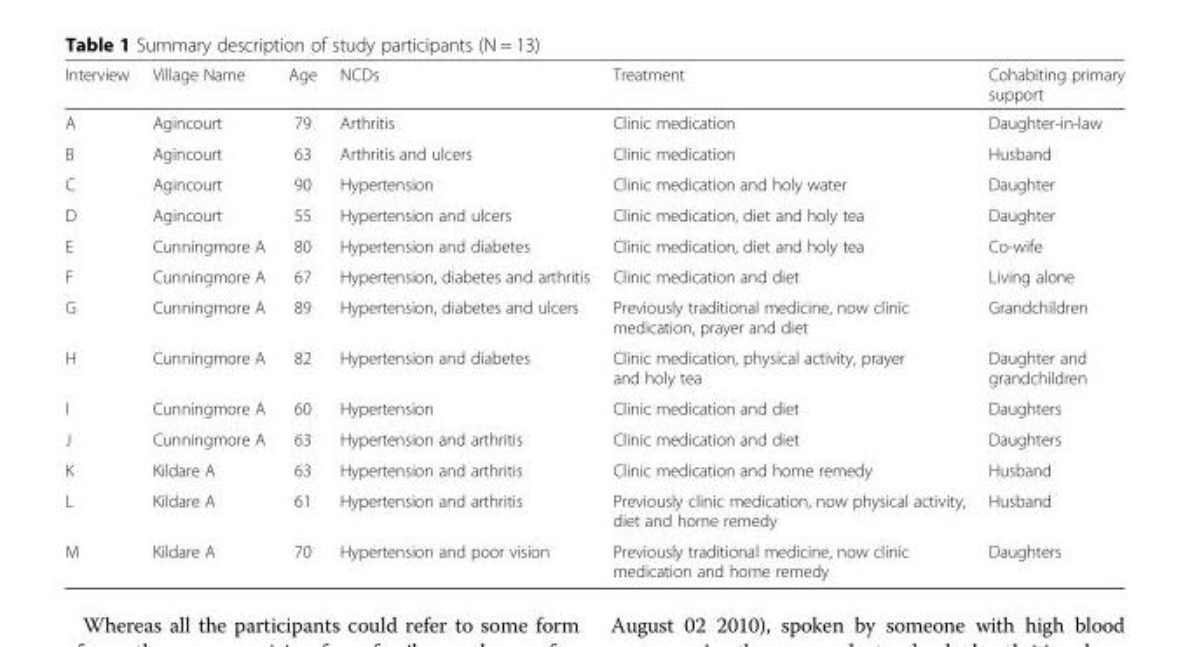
<table><thead><tr><td>Interview</td><td>Village Name</td><td>Age</td><td>NCDs</td><td>Treatment</td><td>Cohabiting primary support</td></tr></thead><tbody><tr><td>A</td><td>Agincourt</td><td>79</td><td>Arthritis</td><td>Clinic medication</td><td>Daughter-in-law</td></tr><tr><td>B</td><td>Agincourt</td><td>63</td><td>Arthritis and ulcers</td><td>Clinic medication</td><td>Husband</td></tr><tr><td>C</td><td>Agincourt</td><td>90</td><td>Hypertension</td><td>Clinic medication and holy water</td><td>Daughter</td></tr><tr><td>D</td><td>Agincourt</td><td>55</td><td>Hypertension and ulcers</td><td>Clinic medication, diet and holy tea</td><td>Daughter</td></tr><tr><td>E</td><td>Cunningmore A</td><td>80</td><td>Hypertension and diabetes</td><td>Clinic medication, diet and holy tea</td><td>Co-wife</td></tr><tr><td>F</td><td>Cunningmore A</td><td>67</td><td>Hypertension, diabetes and arthritis</td><td>Clinic medication and diet</td><td>Living alone</td></tr><tr><td>G</td><td>Cunningmore A</td><td>89</td><td>Hypertension, diabetes and ulcers</td><td>Previously traditional medicine, now clinic medication, prayer and diet</td><td>Grandchildren</td></tr><tr><td>H</td><td>Cunningmore A</td><td>82</td><td>Hypertension and diabetes</td><td>Clinic medication, physical activity, prayer and holy tea</td><td>Daughter and grandchildren</td></tr><tr><td>I</td><td>Cunningmore A</td><td>60</td><td>Hypertension</td><td>Clinic medication and diet</td><td>Daughters</td></tr><tr><td>J</td><td>Cunningmore A</td><td>63</td><td>Hypertension and arthritis</td><td>Clinic medication and diet</td><td>Daughters</td></tr><tr><td>K</td><td>Kildare A</td><td>63</td><td>Hypertension and arthritis</td><td>Clinic medication and home remedy</td><td>Husband</td></tr><tr><td>L</td><td>Kildare A</td><td>61</td><td>Hypertension and arthritis</td><td>Previously clinic medication, now physical activity, diet and home remedy</td><td>Husband</td></tr><tr><td>M</td><td>Kildare A</td><td>70</td><td>Hypertension and poor vision</td><td>Previously traditional medicine, now clinic medication and home remedy</td><td>Daughters</td></tr></tbody></table>